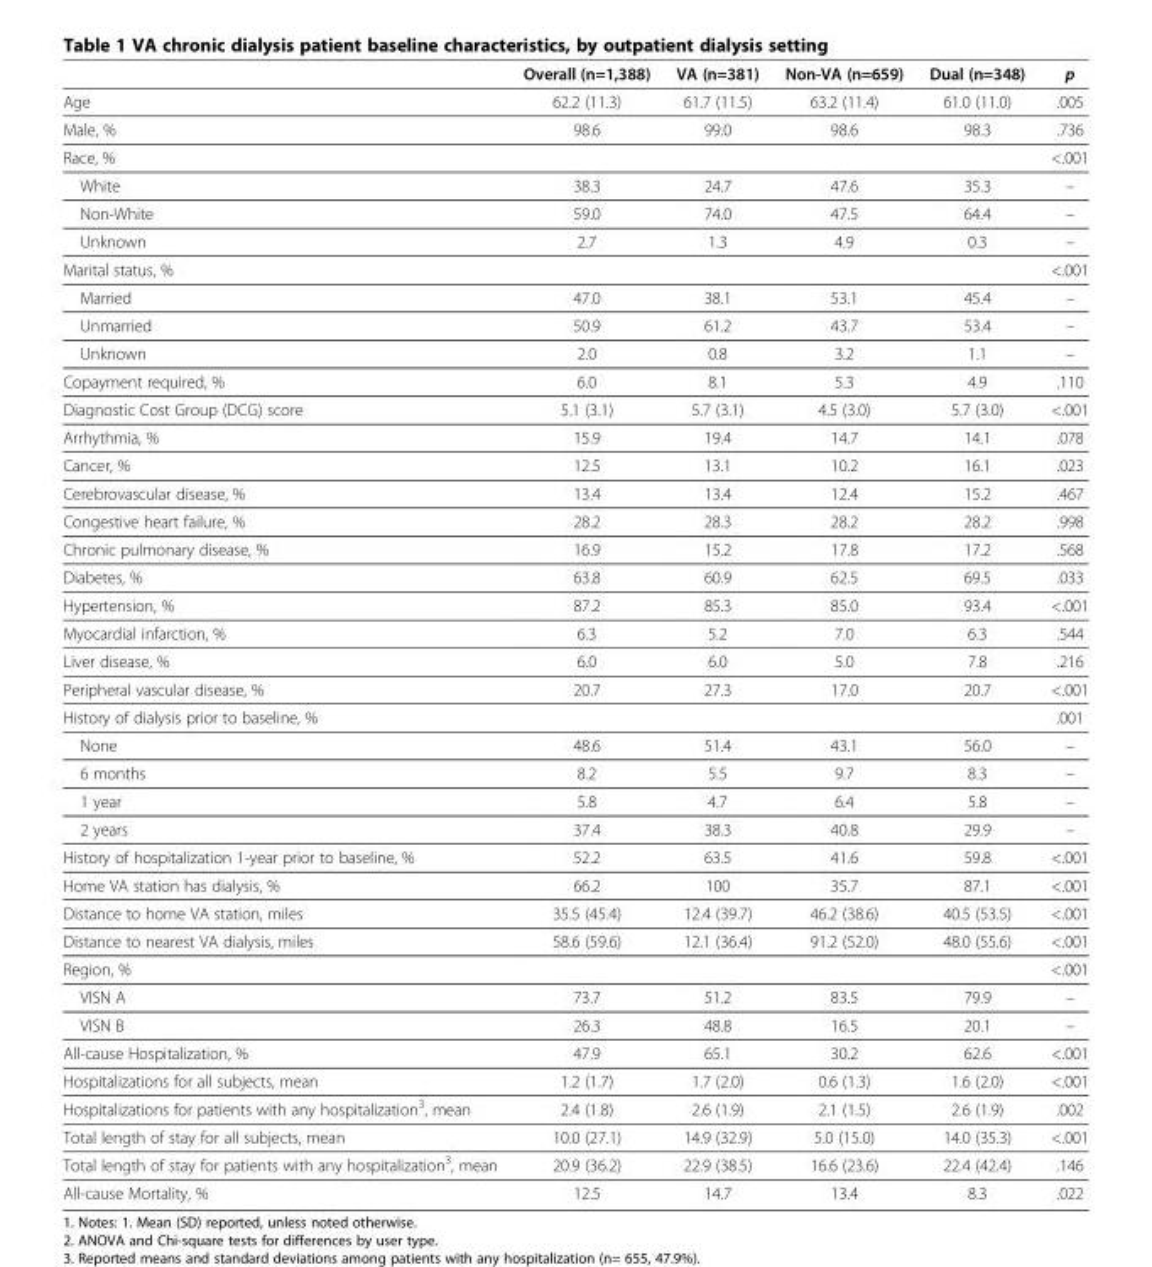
<table><thead><tr><td></td><td>Overall (n=1,388)</td><td>VA (n=381)</td><td>Non-VA (n=659)</td><td>Dual (n=348)</td><td>p</td></tr></thead><tbody><tr><td>Age</td><td>62.2 (11.3)</td><td>61.7 (11.5)</td><td>63.2 (11.4)</td><td>61.0 (11.0)</td><td>.005</td></tr><tr><td>Male, %</td><td>98.6</td><td>99.0</td><td>98.6</td><td>98.3</td><td>.736</td></tr><tr><td>Race, %</td><td></td><td></td><td></td><td></td><td>&lt;.001</td></tr><tr><td>White</td><td>38.3</td><td>24.7</td><td>47.6</td><td>35.3</td><td>–</td></tr><tr><td>Non-White</td><td>59.0</td><td>74.0</td><td>47.5</td><td>64.4</td><td>–</td></tr><tr><td>Unknown</td><td>2.7</td><td>1.3</td><td>4.9</td><td>0.3</td><td>–</td></tr><tr><td>Marital status, %</td><td></td><td></td><td></td><td></td><td>&lt;.001</td></tr><tr><td>Married</td><td>47.0</td><td>38.1</td><td>53.1</td><td>45.4</td><td>–</td></tr><tr><td>Unmarried</td><td>50.9</td><td>61.2</td><td>43.7</td><td>53.4</td><td>–</td></tr><tr><td>Unknown</td><td>2.0</td><td>0.8</td><td>3.2</td><td>1.1</td><td>–</td></tr><tr><td>Copayment required, %</td><td>6.0</td><td>8.1</td><td>5.3</td><td>4.9</td><td>.110</td></tr><tr><td>Diagnostic Cost Group (DCG) score</td><td>5.1 (3.1)</td><td>5.7 (3.1)</td><td>4.5 (3.0)</td><td>5.7 (3.0)</td><td>&lt;.001</td></tr><tr><td>Arrhythmia, %</td><td>15.9</td><td>19.4</td><td>14.7</td><td>14.1</td><td>.078</td></tr><tr><td>Cancer, %</td><td>12.5</td><td>13.1</td><td>10.2</td><td>16.1</td><td>.023</td></tr><tr><td>Cerebrovascular disease, %</td><td>13.4</td><td>13.4</td><td>12.4</td><td>15.2</td><td>.467</td></tr><tr><td>Congestive heart failure, %</td><td>28.2</td><td>28.3</td><td>28.2</td><td>28.2</td><td>.998</td></tr><tr><td>Chronic pulmonary disease, %</td><td>16.9</td><td>15.2</td><td>17.8</td><td>17.2</td><td>.568</td></tr><tr><td>Diabetes, %</td><td>63.8</td><td>60.9</td><td>62.5</td><td>69.5</td><td>.033</td></tr><tr><td>Hypertension, %</td><td>87.2</td><td>85.3</td><td>85.0</td><td>93.4</td><td>&lt;.001</td></tr><tr><td>Myocardial infarction, %</td><td>6.3</td><td>5.2</td><td>7.0</td><td>6.3</td><td>.544</td></tr><tr><td>Liver disease, %</td><td>6.0</td><td>6.0</td><td>5.0</td><td>7.8</td><td>.216</td></tr><tr><td>Peripheral vascular disease, %</td><td>20.7</td><td>27.3</td><td>17.0</td><td>20.7</td><td>&lt;.001</td></tr><tr><td colspan="2">History of dialysis prior to baseline, %</td><td></td><td></td><td></td><td>.001</td></tr><tr><td>None</td><td>48.6</td><td>51.4</td><td>43.1</td><td>56.0</td><td>–</td></tr><tr><td>6 months</td><td>8.2</td><td>5.5</td><td>9.7</td><td>8.3</td><td>–</td></tr><tr><td>1 year</td><td>5.8</td><td>4.7</td><td>6.4</td><td>5.8</td><td>–</td></tr><tr><td>2 years</td><td>37.4</td><td>38.3</td><td>40.8</td><td>29.9</td><td>–</td></tr><tr><td>History of hospitalization 1-year prior to baseline, %</td><td>52.2</td><td>63.5</td><td>41.6</td><td>59.8</td><td>&lt;.001</td></tr><tr><td>Home VA station has dialysis, %</td><td>66.2</td><td>100</td><td>35.7</td><td>87.1</td><td>&lt;.001</td></tr><tr><td>Distance to home VA station, miles</td><td>35.5 (45.4)</td><td>12.4 (39.7)</td><td>46.2 (38.6)</td><td>40.5 (53.5)</td><td>&lt;.001</td></tr><tr><td>Distance to nearest VA dialysis, miles</td><td>58.6 (59.6)</td><td>12.1 (36.4)</td><td>91.2 (52.0)</td><td>48.0 (55.6)</td><td>&lt;.001</td></tr><tr><td>Region, %</td><td></td><td></td><td></td><td></td><td>&lt;.001</td></tr><tr><td>VISN A</td><td>73.7</td><td>51.2</td><td>83.5</td><td>79.9</td><td>–</td></tr><tr><td>VISN B</td><td>26.3</td><td>48.8</td><td>16.5</td><td>20.1</td><td>–</td></tr><tr><td>All-cause Hospitalization, %</td><td>47.9</td><td>65.1</td><td>30.2</td><td>62.6</td><td>&lt;.001</td></tr><tr><td>Hospitalizations for all subjects, mean</td><td>1.2 (1.7)</td><td>1.7 (2.0)</td><td>0.6 (1.3)</td><td>1.6 (2.0)</td><td>&lt;.001</td></tr><tr><td>Hospitalizations for patients with any hospitalization<sup>3</sup>, mean</td><td>2.4 (1.8)</td><td>2.6 (1.9)</td><td>2.1 (1.5)</td><td>2.6 (1.9)</td><td>.002</td></tr><tr><td>Total length of stay for all subjects, mean</td><td>10.0 (27.1)</td><td>14.9 (32.9)</td><td>5.0 (15.0)</td><td>14.0 (35.3)</td><td>&lt;.001</td></tr><tr><td>Total length of stay for patients with any hospitalization<sup>3</sup>, mean</td><td>20.9 (36.2)</td><td>22.9 (38.5)</td><td>16.6 (23.6)</td><td>22.4 (42.4)</td><td>.146</td></tr><tr><td>All-cause Mortality, %</td><td>12.5</td><td>14.7</td><td>13.4</td><td>8.3</td><td>.022</td></tr></tbody></table>